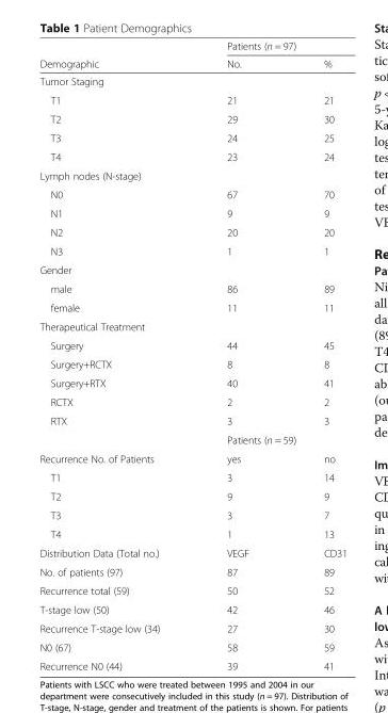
<table><thead><tr><td rowspan="2">Demographic</td><td colspan="2">Patients (n = 97)</td></tr><tr><td>No.</td><td>%</td></tr></thead><tbody><tr><td colspan="3">Tumor Staging</td></tr><tr><td>T1</td><td>21</td><td>21</td></tr><tr><td>T2</td><td>29</td><td>30</td></tr><tr><td>T3</td><td>24</td><td>25</td></tr><tr><td>T4</td><td>23</td><td>24</td></tr><tr><td colspan="3">Lymph nodes (N-stage)</td></tr><tr><td>N0</td><td>67</td><td>70</td></tr><tr><td>N1</td><td>9</td><td>9</td></tr><tr><td>N2</td><td>20</td><td>20</td></tr><tr><td>N3</td><td>1</td><td>1</td></tr><tr><td colspan="3">Gender</td></tr><tr><td>male</td><td>86</td><td>89</td></tr><tr><td>female</td><td>11</td><td>11</td></tr><tr><td colspan="3">Therapeutical Treatment</td></tr><tr><td>Surgery</td><td>44</td><td>45</td></tr><tr><td>Surgery+RCTX</td><td>8</td><td>8</td></tr><tr><td>Surgery+RTX</td><td>40</td><td>41</td></tr><tr><td>RCTX</td><td>2</td><td>2</td></tr><tr><td rowspan="2">RTX</td><td>3</td><td>3</td></tr><tr><td colspan="2">Patients (n = 59)</td></tr><tr><td>Recurrence No. of Patients</td><td>yes</td><td>no</td></tr><tr><td>T1</td><td>3</td><td>14</td></tr><tr><td>T2</td><td>9</td><td>9</td></tr><tr><td>T3</td><td>3</td><td>7</td></tr><tr><td>T4</td><td>1</td><td>13</td></tr><tr><td>Distribution Data (Total no.)</td><td>VEGF</td><td>CD31</td></tr><tr><td>No. of patients (97)</td><td>87</td><td>89</td></tr><tr><td>Recurrence total (59)</td><td>50</td><td>52</td></tr><tr><td>T-stage low (50)</td><td>42</td><td>46</td></tr><tr><td>Recurrence T-stage low (34)</td><td>27</td><td>30</td></tr><tr><td>N0 (67)</td><td>58</td><td>59</td></tr><tr><td>Recurrence N0 (44)</td><td>39</td><td>41</td></tr></tbody></table>